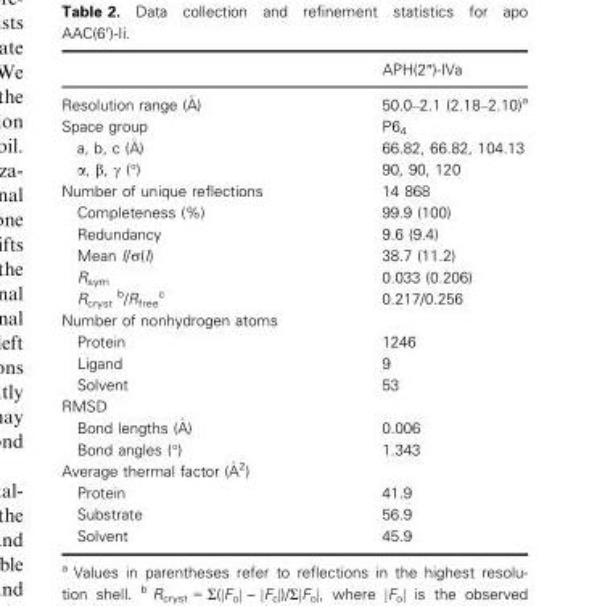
<table><thead><tr><td></td><td>APH(2″)-IVa</td></tr></thead><tbody><tr><td>Resolution range (�A)</td><td>50.0–2.1 (2.18–2.10)<sup>a</sup></td></tr><tr><td>Space group</td><td>P6<sub>4</sub></td></tr><tr><td>a, b, c (�A)</td><td>66.82, 66.82, 104.13</td></tr><tr><td>α, β, γ (°)</td><td>90, 90, 120</td></tr><tr><td>Number of unique reflections</td><td>14 868</td></tr><tr><td>Completeness (%)</td><td>99.9 (100)</td></tr><tr><td>Redundancy</td><td>9.6 (9.4)</td></tr><tr><td>Mean I/σ(I)</td><td>38.7 (11.2)</td></tr><tr><td>R<sub>sym</sub></td><td>0.033 (0.206)</td></tr><tr><td>R<sub>cryst</sub> b/R<sub>free</sub> c</td><td>0.217/0.256</td></tr><tr><td colspan="2">Number of nonhydrogen atoms</td></tr><tr><td>Protein</td><td>1246</td></tr><tr><td>Ligand</td><td>9</td></tr><tr><td>Solvent</td><td>53</td></tr><tr><td colspan="2">RMSD</td></tr><tr><td>Bond lengths (�A)</td><td>0.006</td></tr><tr><td>Bond angles (°)</td><td>1.343</td></tr><tr><td colspan="2">Average thermal factor (�A2)</td></tr><tr><td>Protein</td><td>41.9</td></tr><tr><td>Substrate</td><td>56.9</td></tr><tr><td>Solvent</td><td>45.9</td></tr></tbody></table>